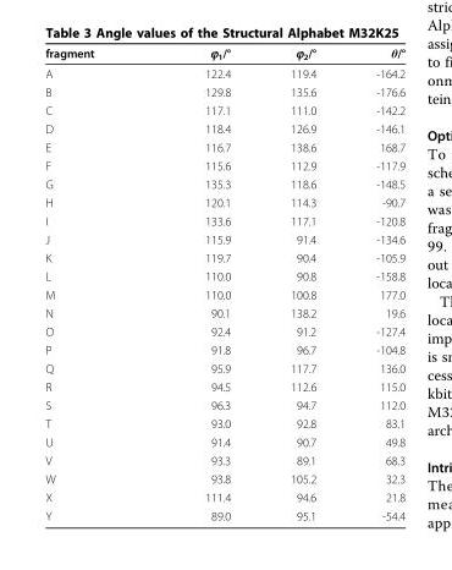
<table><thead><tr><td>fragment</td><td>ϕ<sub>1</sub>/°</td><td>ϕ<sub>2</sub>/°</td><td>θ/°</td></tr></thead><tbody><tr><td>A</td><td>122.4</td><td>119.4</td><td>-164.2</td></tr><tr><td>B</td><td>129.8</td><td>135.6</td><td>-176.6</td></tr><tr><td>C</td><td>117.1</td><td>111.0</td><td>-142.2</td></tr><tr><td>D</td><td>118.4</td><td>126.9</td><td>-146.1</td></tr><tr><td>E</td><td>116.7</td><td>138.6</td><td>168.7</td></tr><tr><td>F</td><td>115.6</td><td>112.9</td><td>-117.9</td></tr><tr><td>G</td><td>135.3</td><td>118.6</td><td>-148.5</td></tr><tr><td>H</td><td>120.1</td><td>114.3</td><td>-90.7</td></tr><tr><td>I</td><td>133.6</td><td>117.1</td><td>-120.8</td></tr><tr><td>J</td><td>115.9</td><td>91.4</td><td>-134.6</td></tr><tr><td>K</td><td>119.7</td><td>90.4</td><td>-105.9</td></tr><tr><td>L</td><td>110.0</td><td>90.8</td><td>-158.8</td></tr><tr><td>M</td><td>110.0</td><td>100.8</td><td>177.0</td></tr><tr><td>N</td><td>90.1</td><td>138.2</td><td>19.6</td></tr><tr><td>O</td><td>92.4</td><td>91.2</td><td>-127.4</td></tr><tr><td>P</td><td>91.8</td><td>96.7</td><td>-104.8</td></tr><tr><td>Q</td><td>95.9</td><td>117.7</td><td>136.0</td></tr><tr><td>R</td><td>94.5</td><td>112.6</td><td>115.0</td></tr><tr><td>S</td><td>96.3</td><td>94.7</td><td>112.0</td></tr><tr><td>T</td><td>93.0</td><td>92.8</td><td>83.1</td></tr><tr><td>U</td><td>91.4</td><td>90.7</td><td>49.8</td></tr><tr><td>V</td><td>93.3</td><td>89.1</td><td>68.3</td></tr><tr><td>W</td><td>93.8</td><td>105.2</td><td>32.3</td></tr><tr><td>X</td><td>111.4</td><td>94.6</td><td>21.8</td></tr><tr><td>Y</td><td>89.0</td><td>95.1</td><td>-54.4</td></tr></tbody></table>